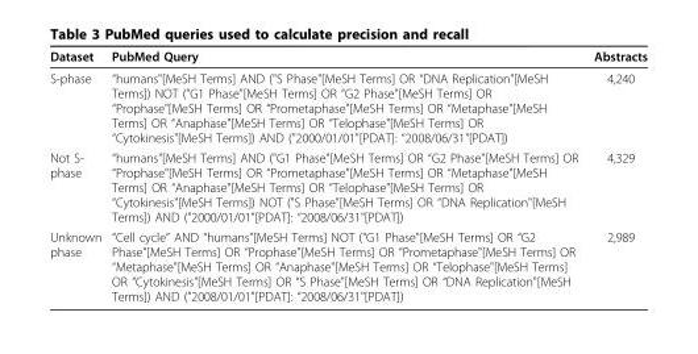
<table><thead><tr><td>Dataset</td><td>PubMed Query</td><td>Abstracts</td></tr></thead><tbody><tr><td>S-phase</td><td>“humans&quot;[MeSH Terms] AND (&quot;S Phase&quot;[MeSH Terms] OR “DNA Replication&quot;[MeSH Terms]) NOT (&quot;G1 Phase&quot;[MeSH Terms] OR “G2 Phase&quot;[MeSH Terms] OR “Prophase&quot;[MeSH Terms] OR “Prometaphase&quot;[MeSH Terms] OR “Metaphase&quot;[MeSH Terms] OR “Anaphase&quot;[MeSH Terms] OR “Telophase&quot;[MeSH Terms] OR “Cytokinesis&quot;[MeSH Terms]) AND (&quot;2000/01/01&quot;[PDAT]: “2008/06/31&quot;[PDAT])</td><td>4,240</td></tr><tr><td>Not S- phase</td><td>“humans&quot;[MeSH Terms] AND (&quot;G1 Phase&quot;[MeSH Terms] OR “G2 Phase&quot;[MeSH Terms] OR “Prophase&quot;[MeSH Terms] OR “Prometaphase&quot;[MeSH Terms] OR “Metaphase&quot;[MeSH Terms] OR “Anaphase&quot;[MeSH Terms] OR “Telophase&quot;[MeSH Terms] OR “Cytokinesis&quot;[MeSH Terms]) NOT (&quot;S Phase&quot;[MeSH Terms] OR “DNA Replication&quot;[MeSH Terms]) AND (&quot;2000/01/01&quot;[PDAT]: “2008/06/31&quot;[PDAT])</td><td>4,329</td></tr><tr><td>Unknown phase</td><td>“Cell cycle” AND “humans&quot;[MeSH Terms] NOT (&quot;G1 Phase&quot;[MeSH Terms] OR “G2 Phase&quot;[MeSH Terms] OR “Prophase&quot;[MeSH Terms] OR “Prometaphase&quot;[MeSH Terms] OR “Metaphase&quot;[MeSH Terms] OR “Anaphase&quot;[MeSH Terms] OR “Telophase&quot;[MeSH Terms] OR “Cytokinesis&quot;[MeSH Terms] OR “S Phase&quot;[MeSH Terms] OR “DNA Replication&quot;[MeSH Terms]) AND (&quot;2008/01/01&quot;[PDAT]: “2008/06/31&quot;[PDAT])</td><td>2,989</td></tr></tbody></table>